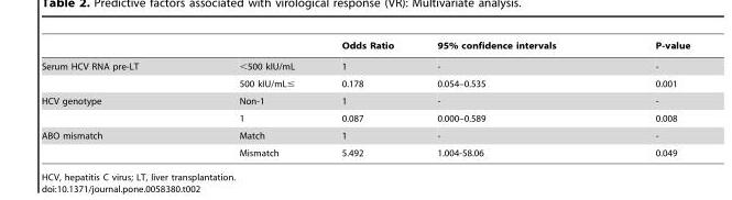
<table><thead><tr><td></td><td></td><td>Odds Ratio</td><td>95% confidence intervals</td><td>P-value</td></tr></thead><tbody><tr><td rowspan="2">Serum HCV RNA pre-LT</td><td>&lt;500 kIU/mL</td><td>1</td><td>-</td><td>-</td></tr><tr><td>500 kIU/mL≤</td><td>0.178</td><td>0.054–0.535</td><td>0.001</td></tr><tr><td rowspan="2">HCV genotype</td><td>Non-1</td><td>1</td><td>-</td><td>-</td></tr><tr><td>1</td><td>0.087</td><td>0.000–0.589</td><td>0.008</td></tr><tr><td rowspan="2">ABO mismatch</td><td>Match</td><td>1</td><td>-</td><td>-</td></tr><tr><td>Mismatch</td><td>5.492</td><td>1.004-58.06</td><td>0.049</td></tr></tbody></table>